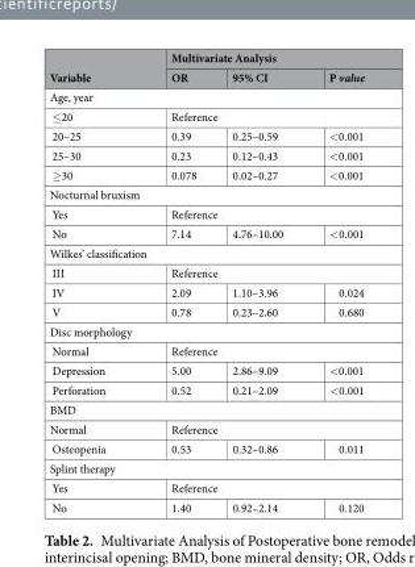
<table><thead><tr><td rowspan="2">Variable</td><td colspan="3">Multivariate Analysis</td></tr><tr><td>OR</td><td>95% CI</td><td>P value</td></tr></thead><tbody><tr><td colspan="4">Age, year</td></tr><tr><td>≤20</td><td colspan="3">Reference</td></tr><tr><td>20–25</td><td>0.39</td><td>0.25–0.59</td><td>&lt;0.001</td></tr><tr><td>25–30</td><td>0.23</td><td>0.12–0.43</td><td>&lt;0.001</td></tr><tr><td>≥30</td><td>0.078</td><td>0.02–0.27</td><td>&lt;0.001</td></tr><tr><td colspan="4">Nocturnal bruxism</td></tr><tr><td>Yes</td><td colspan="3">Reference</td></tr><tr><td>No</td><td>7.14</td><td>4.76–10.00</td><td>&lt;0.001</td></tr><tr><td colspan="4">Wilkes’ classification</td></tr><tr><td>III</td><td colspan="3">Reference</td></tr><tr><td>IV</td><td>2.09</td><td>1.10–3.96</td><td>0.024</td></tr><tr><td>V</td><td>0.78</td><td>0.23–2.60</td><td>0.680</td></tr><tr><td colspan="4">Disc morphology</td></tr><tr><td>Normal</td><td colspan="3">Reference</td></tr><tr><td>Depression</td><td>5.00</td><td>2.86–9.09</td><td>&lt;0.001</td></tr><tr><td>Perforation</td><td>0.52</td><td>0.21–2.09</td><td>&lt;0.001</td></tr><tr><td colspan="4">BMD</td></tr><tr><td>Normal</td><td colspan="3">Reference</td></tr><tr><td>Osteopenia</td><td>0.53</td><td>0.32–0.86</td><td>0.011</td></tr><tr><td colspan="4">Splint therapy</td></tr><tr><td>Yes</td><td colspan="3">Reference</td></tr><tr><td>No</td><td>1.40</td><td>0.92–2.14</td><td>0.120</td></tr></tbody></table>